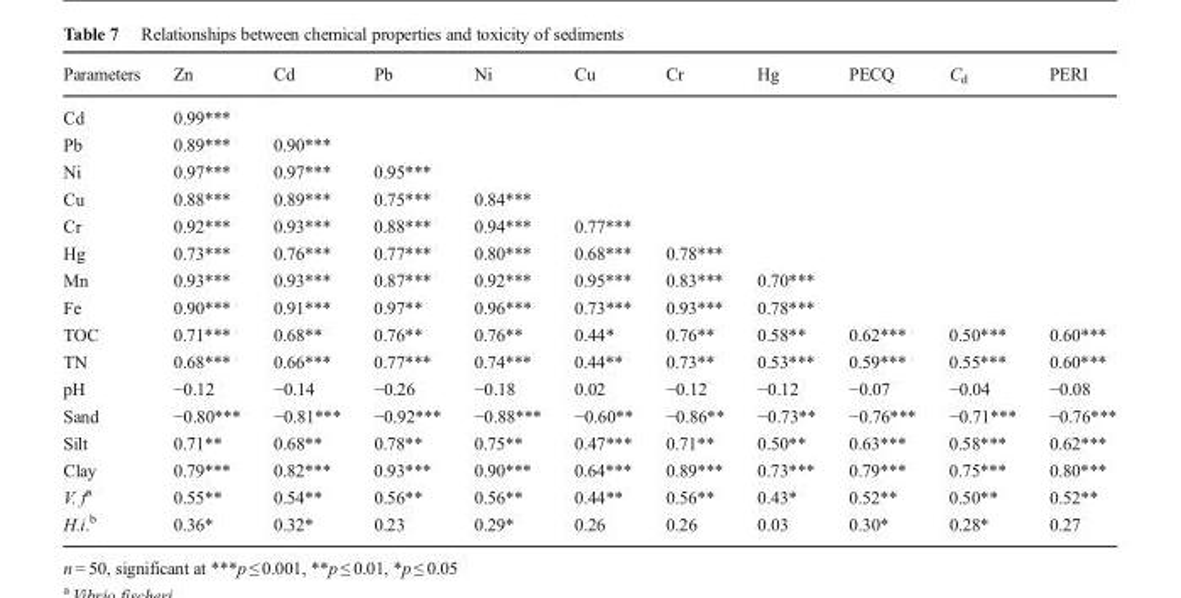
<table><thead><tr><td>Parameters</td><td>Zn</td><td>Cd</td><td>Pb</td><td>Ni</td><td>Cu</td><td>Cr</td><td>Hg</td><td>PECQ</td><td>C<sub>d</sub></td><td>PERI</td></tr></thead><tbody><tr><td>Cd</td><td>0.99***</td><td></td><td></td><td></td><td></td><td></td><td></td><td></td><td></td><td></td></tr><tr><td>Pb</td><td>0.89***</td><td>0.90***</td><td></td><td></td><td></td><td></td><td></td><td></td><td></td><td></td></tr><tr><td>Ni</td><td>0.97***</td><td>0.97***</td><td>0.95***</td><td></td><td></td><td></td><td></td><td></td><td></td><td></td></tr><tr><td>Cu</td><td>0.88***</td><td>0.89***</td><td>0.75***</td><td>0.84***</td><td></td><td></td><td></td><td></td><td></td><td></td></tr><tr><td>Cr</td><td>0.92***</td><td>0.93***</td><td>0.88***</td><td>0.94***</td><td>0.77***</td><td></td><td></td><td></td><td></td><td></td></tr><tr><td>Hg</td><td>0.73***</td><td>0.76***</td><td>0.77***</td><td>0.80***</td><td>0.68***</td><td>0.78***</td><td></td><td></td><td></td><td></td></tr><tr><td>Mn</td><td>0.93***</td><td>0.93***</td><td>0.87***</td><td>0.92***</td><td>0.95***</td><td>0.83***</td><td>0.70***</td><td></td><td></td><td></td></tr><tr><td>Fe</td><td>0.90***</td><td>0.91***</td><td>0.97**</td><td>0.96***</td><td>0.73***</td><td>0.93***</td><td>0.78***</td><td></td><td></td><td></td></tr><tr><td>TOC</td><td>0.71***</td><td>0.68**</td><td>0.76**</td><td>0.76**</td><td>0.44*</td><td>0.76**</td><td>0.58**</td><td>0.62***</td><td>0.50***</td><td>0.60***</td></tr><tr><td>TN</td><td>0.68***</td><td>0.66***</td><td>0.77***</td><td>0.74***</td><td>0.44**</td><td>0.73**</td><td>0.53***</td><td>0.59***</td><td>0.55***</td><td>0.60***</td></tr><tr><td>pH</td><td>−0.12</td><td>−0.14</td><td>−0.26</td><td>−0.18</td><td>0.02</td><td>−0.12</td><td>−0.12</td><td>−0.07</td><td>−0.04</td><td>−0.08</td></tr><tr><td>Sand</td><td>−0.80***</td><td>−0.81***</td><td>−0.92***</td><td>−0.88***</td><td>−0.60**</td><td>−0.86**</td><td>−0.73**</td><td>−0.76***</td><td>−0.71***</td><td>−0.76***</td></tr><tr><td>Silt</td><td>0.71**</td><td>0.68**</td><td>0.78**</td><td>0.75**</td><td>0.47***</td><td>0.71**</td><td>0.50**</td><td>0.63***</td><td>0.58***</td><td>0.62***</td></tr><tr><td>Clay</td><td>0.79***</td><td>0.82***</td><td>0.93***</td><td>0.90***</td><td>0.64***</td><td>0.89***</td><td>0.73***</td><td>0.79***</td><td>0.75***</td><td>0.80***</td></tr><tr><td>V. f<sup>a</sup></td><td>0.55**</td><td>0.54**</td><td>0.56**</td><td>0.56**</td><td>0.44**</td><td>0.56**</td><td>0.43*</td><td>0.52**</td><td>0.50**</td><td>0.52**</td></tr><tr><td>H.i.<sup>b</sup></td><td>0.36*</td><td>0.32*</td><td>0.23</td><td>0.29*</td><td>0.26</td><td>0.26</td><td>0.03</td><td>0.30*</td><td>0.28*</td><td>0.27</td></tr></tbody></table>